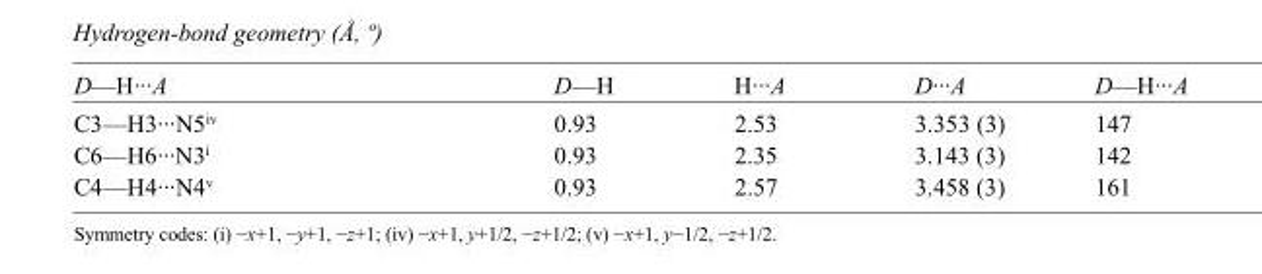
<table><tbody><tr><td>D—H···A</td><td>D—H</td><td>H···A</td><td>D···A</td><td>D—H···A</td></tr><tr><td>C3—H3···N5<sup>iv</sup></td><td>0.93</td><td>2.53</td><td>3.353 (3)</td><td>147</td></tr><tr><td>C6—H6···N3<sup>i</sup></td><td>0.93</td><td>2.35</td><td>3.143 (3)</td><td>142</td></tr><tr><td>C4—H4···N4<sup>v</sup></td><td>0.93</td><td>2.57</td><td>3.458 (3)</td><td>161</td></tr></tbody></table>